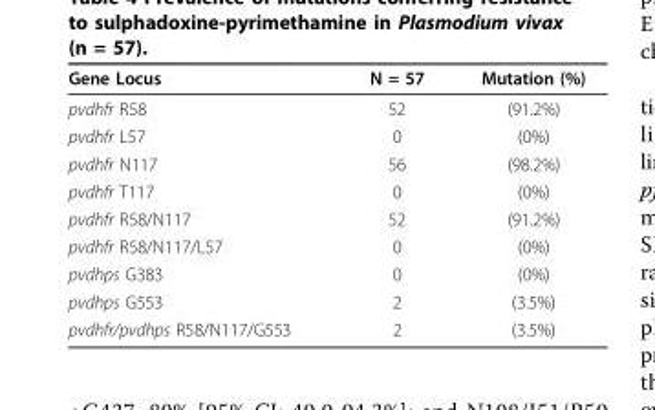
<table><thead><tr><td>Gene Locus</td><td>N = 57</td><td>Mutation (%)</td></tr></thead><tbody><tr><td>pvdhfr R58</td><td>52</td><td>(91.2%)</td></tr><tr><td>pvdhfr L57</td><td>0</td><td>(0%)</td></tr><tr><td>pvdhfr N117</td><td>56</td><td>(98.2%)</td></tr><tr><td>pvdhfr T117</td><td>0</td><td>(0%)</td></tr><tr><td>pvdhfr R58/N117</td><td>52</td><td>(91.2%)</td></tr><tr><td>pvdhfr R58/N117/L57</td><td>0</td><td>(0%)</td></tr><tr><td>pvdhps G383</td><td>0</td><td>(0%)</td></tr><tr><td>pvdhps G553</td><td>2</td><td>(3.5%)</td></tr><tr><td>pvdhfr/pvdhps R58/N117/G553</td><td>2</td><td>(3.5%)</td></tr></tbody></table>